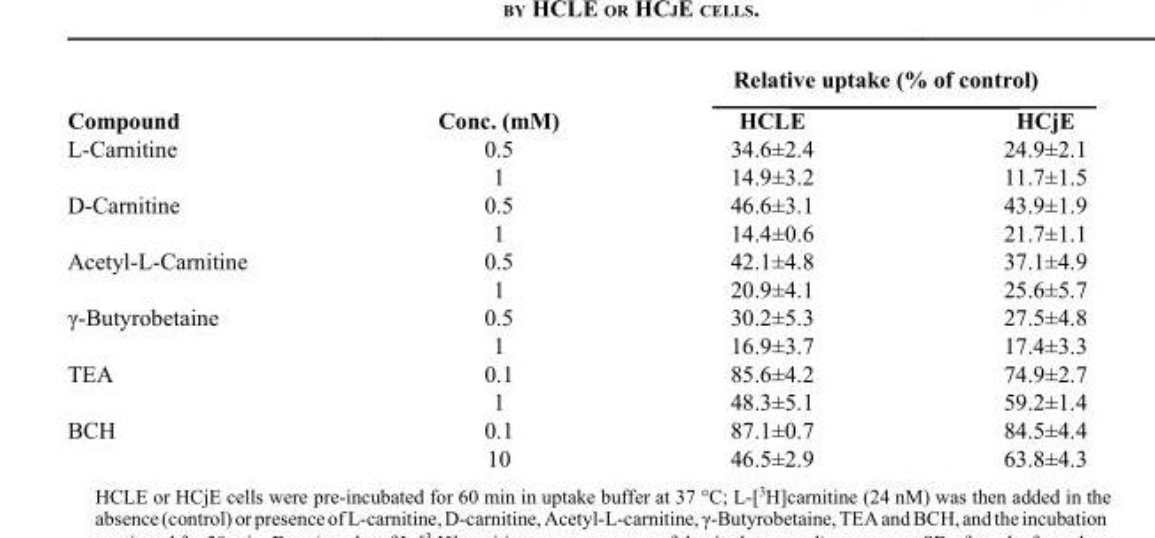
<table><thead><tr><td rowspan="2">Compound</td><td rowspan="2">Conc. (mM)</td><td colspan="2">Relative uptake (% of control)</td></tr><tr><td>HCLE</td><td>HCjE</td></tr></thead><tbody><tr><td rowspan="2">L-Carnitine</td><td>0.5</td><td>34.6±2.4</td><td>24.9±2.1</td></tr><tr><td>1</td><td>14.9±3.2</td><td>11.7±1.5</td></tr><tr><td rowspan="2">D-Carnitine</td><td>0.5</td><td>46.6±3.1</td><td>43.9±1.9</td></tr><tr><td>1</td><td>14.4±0.6</td><td>21.7±1.1</td></tr><tr><td rowspan="2">Acetyl-L-Carnitine</td><td>0.5</td><td>42.1±4.8</td><td>37.1±4.9</td></tr><tr><td>1</td><td>20.9±4.1</td><td>25.6±5.7</td></tr><tr><td rowspan="2">γ-Butyrobetaine</td><td>0.5</td><td>30.2±5.3</td><td>27.5±4.8</td></tr><tr><td>1</td><td>16.9±3.7</td><td>17.4±3.3</td></tr><tr><td rowspan="2">TEA</td><td>0.1</td><td>85.6±4.2</td><td>74.9±2.7</td></tr><tr><td>1</td><td>48.3±5.1</td><td>59.2±1.4</td></tr><tr><td rowspan="2">BCH</td><td>0.1</td><td>87.1±0.7</td><td>84.5±4.4</td></tr><tr><td>10</td><td>46.5±2.9</td><td>63.8±4.3</td></tr></tbody></table>